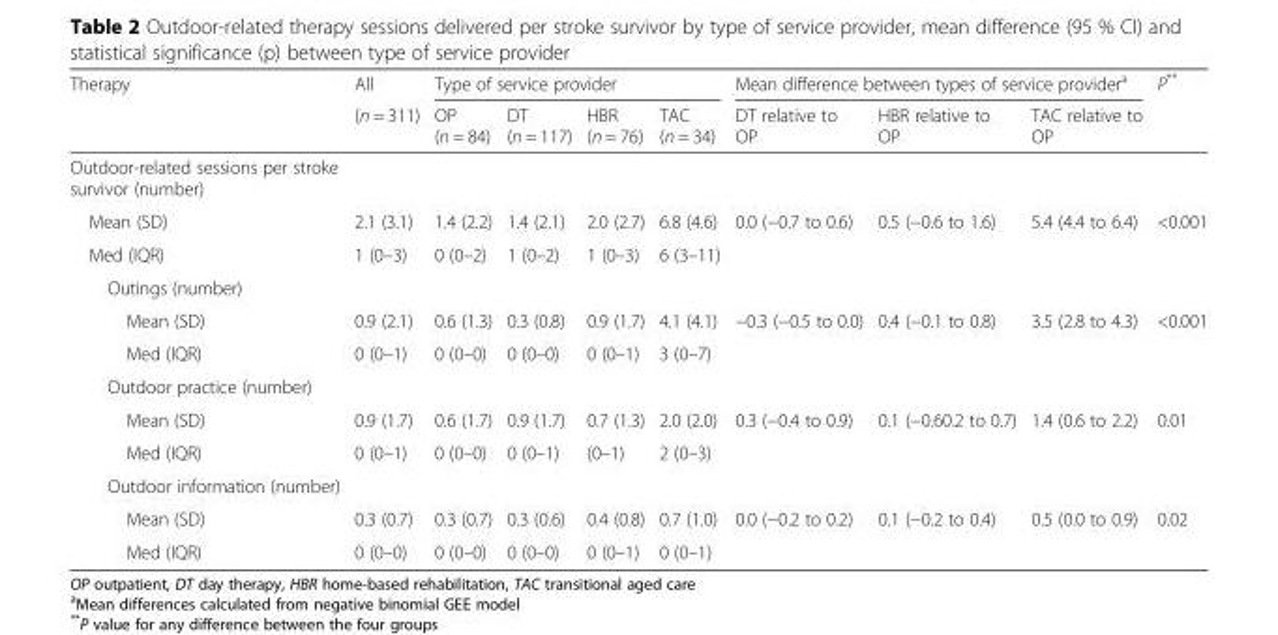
<table><thead><tr><td rowspan="2">Therapy</td><td rowspan="2">All (n = 311)</td><td colspan="4">Type of service provider</td><td colspan="3">Mean difference between types of service provider<sup>a</sup></td><td rowspan="2">P**</td></tr><tr><td>OP (n = 84)</td><td>DT (n = 117)</td><td>HBR (n = 76)</td><td>TAC (n = 34)</td><td>DT relative to OP</td><td>HBR relative to OP</td><td>TAC relative to OP</td></tr></thead><tbody><tr><td colspan="10">Outdoor-related sessions per stroke survivor (number)</td></tr><tr><td>Mean (SD)</td><td>2.1 (3.1)</td><td>1.4 (2.2)</td><td>1.4 (2.1)</td><td>2.0 (2.7)</td><td>6.8 (4.6)</td><td>0.0 (−0.7 to 0.6)</td><td>0.5 (−0.6 to 1.6)</td><td>5.4 (4.4 to 6.4)</td><td>&lt;0.001</td></tr><tr><td>Med (IQR)</td><td>1 (0–3)</td><td>0 (0–2)</td><td>1 (0–2)</td><td>1 (0–3)</td><td>6 (3–11)</td><td></td><td></td><td></td><td></td></tr><tr><td colspan="10">Outings (number)</td></tr><tr><td>Mean (SD)</td><td>0.9 (2.1)</td><td>0.6 (1.3)</td><td>0.3 (0.8)</td><td>0.9 (1.7)</td><td>4.1 (4.1)</td><td>−0.3 (−0.5 to 0.0)</td><td>0.4 (−0.1 to 0.8)</td><td>3.5 (2.8 to 4.3)</td><td>&lt;0.001</td></tr><tr><td>Med (IQR)</td><td>0 (0–1)</td><td>0 (0–0)</td><td>0 (0–0)</td><td>0 (0–1)</td><td>3 (0–7)</td><td></td><td></td><td></td><td></td></tr><tr><td colspan="10">Outdoor practice (number)</td></tr><tr><td>Mean (SD)</td><td>0.9 (1.7)</td><td>0.6 (1.7)</td><td>0.9 (1.7)</td><td>0.7 (1.3)</td><td>2.0 (2.0)</td><td>0.3 (−0.4 to 0.9)</td><td>0.1 (−0.60.2 to 0.7)</td><td>1.4 (0.6 to 2.2)</td><td>0.01</td></tr><tr><td>Med (IQR)</td><td>0 (0–1)</td><td>0 (0–0)</td><td>0 (0–1)</td><td>(0–1)</td><td>2 (0–3)</td><td></td><td></td><td></td><td></td></tr><tr><td colspan="10">Outdoor information (number)</td></tr><tr><td>Mean (SD)</td><td>0.3 (0.7)</td><td>0.3 (0.7)</td><td>0.3 (0.6)</td><td>0.4 (0.8)</td><td>0.7 (1.0)</td><td>0.0 (−0.2 to 0.2)</td><td>0.1 (−0.2 to 0.4)</td><td>0.5 (0.0 to 0.9)</td><td>0.02</td></tr><tr><td>Med (IQR)</td><td>0 (0–0)</td><td>0 (0–0)</td><td>0 (0–0)</td><td>0 (0–1)</td><td>0 (0–1)</td><td></td><td></td><td></td><td></td></tr></tbody></table>